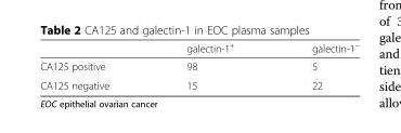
<table><thead><tr><td></td><td>galectin-1<sup>+</sup></td><td>galectin-1<sup>−</sup></td></tr></thead><tbody><tr><td>CA125 positive</td><td>98</td><td>5</td></tr><tr><td>CA125 negative</td><td>15</td><td>22</td></tr></tbody></table>